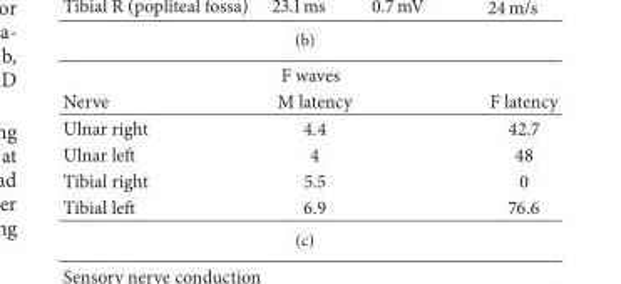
<table><thead><tr><td colspan="3">F waves</td></tr><tr><td>Nerve</td><td>M latency</td><td>F latency</td></tr></thead><tbody><tr><td>Ulnar right</td><td>4.4</td><td>42.7</td></tr><tr><td>Ulnar left</td><td>4</td><td>48</td></tr><tr><td>Tibial right</td><td>5.5</td><td>0</td></tr><tr><td>Tibial left</td><td>6.9</td><td>76.6</td></tr></tbody></table>